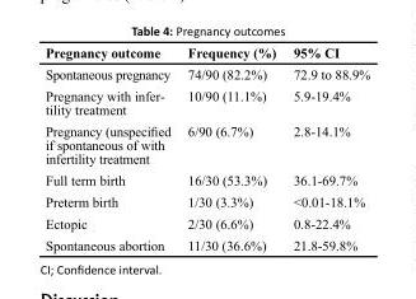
<table><thead><tr><td>Pregnancy outcome</td><td>Frequency (%)</td><td>95% CI</td></tr></thead><tbody><tr><td>Spontaneous pregnancy</td><td>74/90 (82.2%)</td><td>72.9 to 88.9%</td></tr><tr><td>Pregnancy with infer- tility treatment</td><td>10/90 (11.1%)</td><td>5.9-19.4%</td></tr><tr><td>Pregnancy (unspecified if spontaneous of with infertility treatment</td><td>6/90 (6.7%)</td><td>2.8-14.1%</td></tr><tr><td>Full term birth</td><td>16/30 (53.3%)</td><td>36.1-69.7%</td></tr><tr><td>Preterm birth</td><td>1/30 (3.3%)</td><td>&lt;0.01-18.1%</td></tr><tr><td>Ectopic</td><td>2/30 (6.6%)</td><td>0.8-22.4%</td></tr><tr><td>Spontaneous abortion</td><td>11/30 (36.6%)</td><td>21.8-59.8%</td></tr></tbody></table>